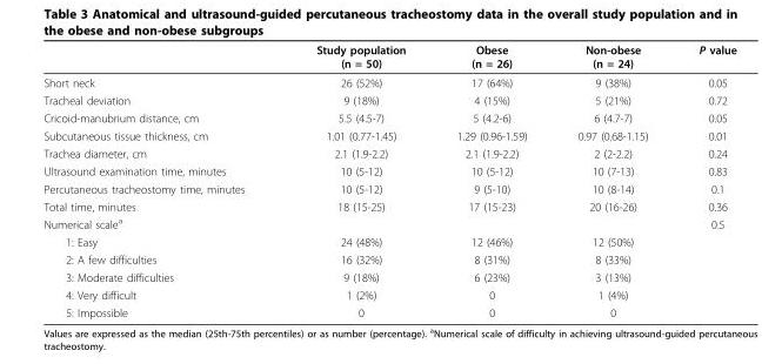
<table><thead><tr><td></td><td>Study population (n = 50)</td><td>Obese (n = 26)</td><td>Non-obese (n = 24)</td><td>P value</td></tr></thead><tbody><tr><td>Short neck</td><td>26 (52%)</td><td>17 (64%)</td><td>9 (38%)</td><td>0.05</td></tr><tr><td>Tracheal deviation</td><td>9 (18%)</td><td>4 (15%)</td><td>5 (21%)</td><td>0.72</td></tr><tr><td>Cricoid-manubrium distance, cm</td><td>5.5 (4.5-7)</td><td>5 (4.2-6)</td><td>6 (4.7-7)</td><td>0.05</td></tr><tr><td>Subcutaneous tissue thickness, cm</td><td>1.01 (0.77-1.45)</td><td>1.29 (0.96-1.59)</td><td>0.97 (0.68-1.15)</td><td>0.01</td></tr><tr><td>Trachea diameter, cm</td><td>2.1 (1.9-2.2)</td><td>2.1 (1.9-2.2)</td><td>2 (2-2.2)</td><td>0.24</td></tr><tr><td>Ultrasound examination time, minutes</td><td>10 (5-12)</td><td>10 (5-12)</td><td>10 (7-13)</td><td>0.83</td></tr><tr><td>Percutaneous tracheostomy time, minutes</td><td>10 (5-12)</td><td>9 (5-10)</td><td>10 (8-14)</td><td>0.1</td></tr><tr><td>Total time, minutes</td><td>18 (15-25)</td><td>17 (15-23)</td><td>20 (16-26)</td><td>0.36</td></tr><tr><td>Numerical scale<sup>a</sup></td><td></td><td></td><td></td><td>0.5</td></tr><tr><td>1: Easy</td><td>24 (48%)</td><td>12 (46%)</td><td>12 (50%)</td><td></td></tr><tr><td>2: A few difficulties</td><td>16 (32%)</td><td>8 (31%)</td><td>8 (33%)</td><td></td></tr><tr><td>3: Moderate difficulties</td><td>9 (18%)</td><td>6 (23%)</td><td>3 (13%)</td><td></td></tr><tr><td>4: Very difficult</td><td>1 (2%)</td><td>0</td><td>1 (4%)</td><td></td></tr><tr><td>5: Impossible</td><td>0</td><td>0</td><td>0</td><td></td></tr></tbody></table>